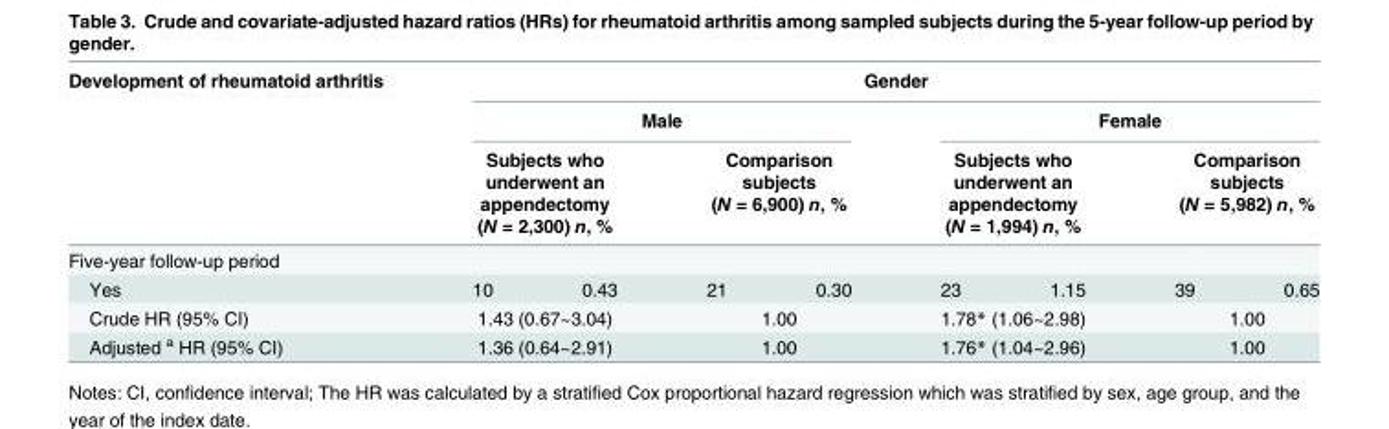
<table><thead><tr><td rowspan="4">Development of rheumatoid arthritis Five-year follow-up period</td><td colspan="8">Gender</td></tr><tr><td colspan="4">Male</td><td colspan="4">Female</td></tr><tr><td colspan="2">Subjects who underwent an appendectomy (N = 2,300) n, %</td><td colspan="2">Comparison subjects (N = 6,900) n, %</td><td colspan="2">Subjects who underwent an appendectomy (N = 1,994) n, %</td><td colspan="2">Comparison subjects (N = 5,982) n, %</td></tr><tr><td></td><td></td><td></td><td></td><td></td><td></td><td></td><td></td></tr></thead><tbody><tr><td>Yes</td><td>10</td><td>0.43</td><td>21</td><td>0.30</td><td>23</td><td>1.15</td><td>39</td><td>0.65</td></tr><tr><td>Crude HR (95% CI)</td><td colspan="2">1.43 (0.67~3.04)</td><td colspan="2">1.00</td><td colspan="2">1.78* (1.06~2.98)</td><td colspan="2">1.00</td></tr><tr><td>Adjusted <sup>a</sup> HR (95% CI)</td><td colspan="2">1.36 (0.64~2.91)</td><td colspan="2">1.00</td><td colspan="2">1.76* (1.04~2.96)</td><td colspan="2">1.00</td></tr></tbody></table>